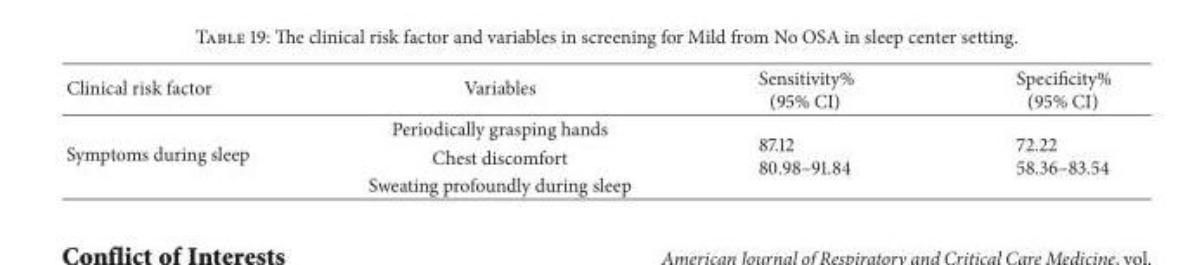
<table><thead><tr><td>Clinical risk factor</td><td>Variables</td><td>Sensitivity% (95% CI)</td><td>Specificity% (95% CI)</td></tr></thead><tbody><tr><td rowspan="3">Symptoms during sleep</td><td>Periodically grasping hands</td><td rowspan="3">87.12 80.98–91.84</td><td rowspan="3">72.22 58.36–83.54</td></tr><tr><td>Chest discomfort</td></tr><tr><td>Sweating profoundly during sleep</td></tr></tbody></table>